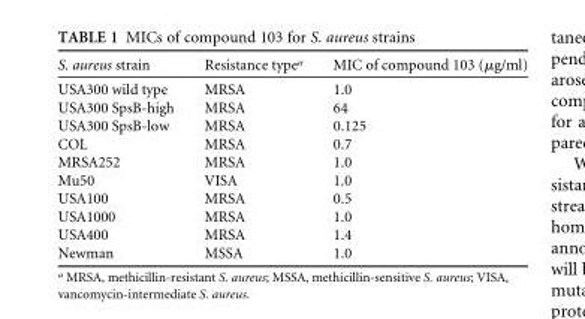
<table><thead><tr><td>S. aureus strain</td><td>Resistance type<sup>a</sup></td><td>MIC of compound 103 (μg/ml)</td></tr></thead><tbody><tr><td>USA300 wild type</td><td>MRSA</td><td>1.0</td></tr><tr><td>USA300 SpsB-high</td><td>MRSA</td><td>64</td></tr><tr><td>USA300 SpsB-low</td><td>MRSA</td><td>0.125</td></tr><tr><td>COL</td><td>MRSA</td><td>0.7</td></tr><tr><td>MRSA252</td><td>MRSA</td><td>1.0</td></tr><tr><td>Mu50</td><td>VISA</td><td>1.0</td></tr><tr><td>USA100</td><td>MRSA</td><td>0.5</td></tr><tr><td>USA1000</td><td>MRSA</td><td>1.0</td></tr><tr><td>USA400</td><td>MRSA</td><td>1.4</td></tr><tr><td>Newman</td><td>MSSA</td><td>1.0</td></tr></tbody></table>